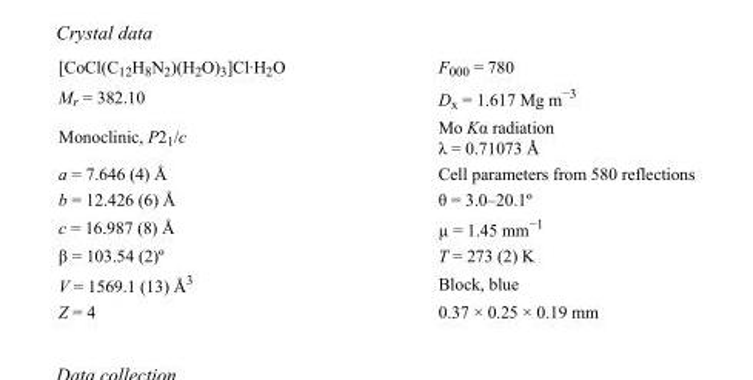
<table><tbody><tr><td>[CoCl(C<sub>12</sub>H<sub>8</sub>N<sub>2</sub>)(H<sub>2</sub>O)<sub>3</sub>]Cl·H<sub>2</sub>O</td><td>F000 = 780</td></tr><tr><td>M<sub>r</sub> = 382.10</td><td>D<sub>x</sub> = 1.617 Mg m<sup>−3</sup></td></tr><tr><td>Monoclinic, P2<sub>1</sub>/c</td><td>Mo Kα radiation λ = 0.71073 Å</td></tr><tr><td>a = 7.646 (4) Å</td><td>Cell parameters from 580 reflections</td></tr><tr><td>b = 12.426 (6) Å</td><td>θ = 3.0–20.1º</td></tr><tr><td>c = 16.987 (8) Å</td><td>µ = 1.45 mm<sup>−1</sup></td></tr><tr><td>β = 103.54 (2)º</td><td>T = 273 (2) K</td></tr><tr><td>V = 1569.1 (13) Å<sup>3</sup></td><td>Block, blue</td></tr><tr><td>Z = 4</td><td>0.37 × 0.25 × 0.19 mm</td></tr></tbody></table>